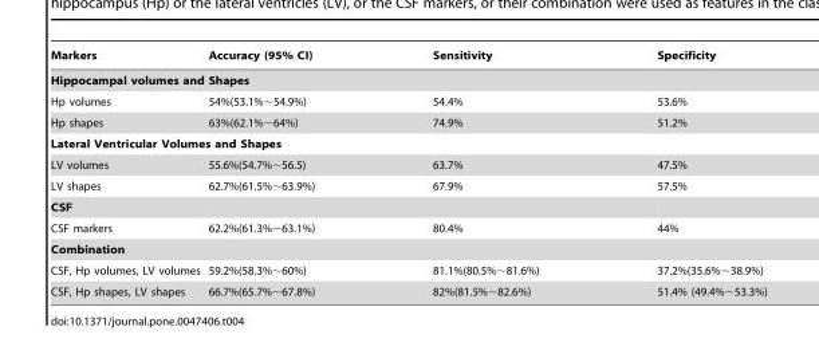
<table><thead><tr><td>Markers</td><td>Accuracy (95% CI)</td><td>Sensitivity</td><td>Specificity</td></tr></thead><tbody><tr><td colspan="4">Hippocampal volumes and Shapes</td></tr><tr><td>Hp volumes</td><td>54%(53.1%∼54.9%)</td><td>54.4%</td><td>53.6%</td></tr><tr><td>Hp shapes</td><td>63%(62.1%∼64%)</td><td>74.9%</td><td>51.2%</td></tr><tr><td colspan="4">Lateral Ventricular Volumes and Shapes</td></tr><tr><td>LV volumes</td><td>55.6%(54.7%∼56.5)</td><td>63.7%</td><td>47.5%</td></tr><tr><td>LV shapes</td><td>62.7%(61.5%∼63.9%)</td><td>67.9%</td><td>57.5%</td></tr><tr><td colspan="4">CSF</td></tr><tr><td>CSF markers</td><td>62.2%(61.3%∼63.1%)</td><td>80.4%</td><td>44%</td></tr><tr><td colspan="4">Combination</td></tr><tr><td>CSF, Hp volumes, LV volumes</td><td>59.2%(58.3%∼60%)</td><td>81.1%(80.5%∼81.6%)</td><td>37.2%(35.6%∼38.9%)</td></tr><tr><td>CSF, Hp shapes, LV shapes</td><td>66.7%(65.7%∼67.8%)</td><td>82%(81.5%∼82.6%)</td><td>51.4% (49.4%∼53.3%)</td></tr></tbody></table>